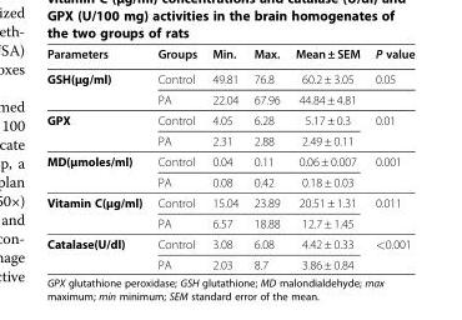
<table><thead><tr><td>Parameters</td><td>Groups</td><td>Min.</td><td>Max.</td><td>Mean ± SEM</td><td>P value</td></tr></thead><tbody><tr><td rowspan="2">GSH(μg/ml)</td><td>Control</td><td>49.81</td><td>76.8</td><td>60.2 ± 3.05</td><td>0.05</td></tr><tr><td>PA</td><td>22.04</td><td>67.96</td><td>44.84 ± 4.81</td><td></td></tr><tr><td rowspan="2">GPX</td><td>Control</td><td>4.05</td><td>6.28</td><td>5.17 ± 0.3</td><td>0.01</td></tr><tr><td>PA</td><td>2.31</td><td>2.88</td><td>2.49 ± 0.11</td><td></td></tr><tr><td rowspan="2">MD(μmoles/ml)</td><td>Control</td><td>0.04</td><td>0.11</td><td>0.06 ± 0.007</td><td>0.001</td></tr><tr><td>PA</td><td>0.08</td><td>0.42</td><td>0.18 ± 0.03</td><td></td></tr><tr><td rowspan="2">Vitamin C(μg/ml)</td><td>Control</td><td>15.04</td><td>23.89</td><td>20.51 ± 1.31</td><td>0.011</td></tr><tr><td>PA</td><td>6.57</td><td>18.88</td><td>12.7 ± 1.45</td><td></td></tr><tr><td rowspan="2">Catalase(U/dl)</td><td>Control</td><td>3.08</td><td>6.08</td><td>4.42 ± 0.33</td><td>&lt;0.001</td></tr><tr><td>PA</td><td>2.03</td><td>8.7</td><td>3.86 ± 0.84</td><td></td></tr></tbody></table>